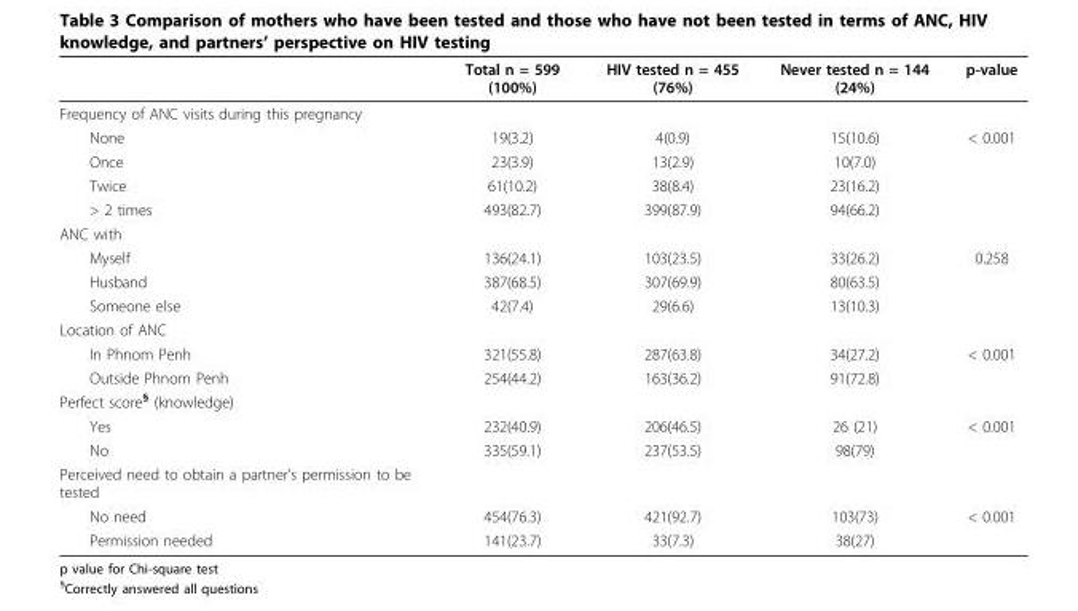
<table><thead><tr><td></td><td>Total n = 599 (100%)</td><td>HIV tested n = 455 (76%)</td><td>Never tested n = 144 (24%)</td><td>p-value</td></tr></thead><tbody><tr><td colspan="5">Frequency of ANC visits during this pregnancy</td></tr><tr><td>None</td><td>19(3.2)</td><td>4(0.9)</td><td>15(10.6)</td><td>&lt; 0.001</td></tr><tr><td>Once</td><td>23(3.9)</td><td>13(2.9)</td><td>10(7.0)</td><td></td></tr><tr><td>Twice</td><td>61(10.2)</td><td>38(8.4)</td><td>23(16.2)</td><td></td></tr><tr><td>&gt; 2 times</td><td>493(82.7)</td><td>399(87.9)</td><td>94(66.2)</td><td></td></tr><tr><td colspan="5">ANC with</td></tr><tr><td>Myself</td><td>136(24.1)</td><td>103(23.5)</td><td>33(26.2)</td><td>0.258</td></tr><tr><td>Husband</td><td>387(68.5)</td><td>307(69.9)</td><td>80(63.5)</td><td></td></tr><tr><td>Someone else</td><td>42(7.4)</td><td>29(6.6)</td><td>13(10.3)</td><td></td></tr><tr><td colspan="5">Location of ANC</td></tr><tr><td>In Phnom Penh</td><td>321(55.8)</td><td>287(63.8)</td><td>34(27.2)</td><td>&lt; 0.001</td></tr><tr><td>Outside Phnom Penh</td><td>254(44.2)</td><td>163(36.2)</td><td>91(72.8)</td><td></td></tr><tr><td colspan="5">Perfect score<sup>§</sup> (knowledge)</td></tr><tr><td>Yes</td><td>232(40.9)</td><td>206(46.5)</td><td>26 (21)</td><td>&lt; 0.001</td></tr><tr><td>No</td><td>335(59.1)</td><td>237(53.5)</td><td>98(79)</td><td></td></tr><tr><td colspan="5">Perceived need to obtain a partner’s permission to be tested</td></tr><tr><td>No need</td><td>454(76.3)</td><td>421(92.7)</td><td>103(73)</td><td>&lt; 0.001</td></tr><tr><td>Permission needed</td><td>141(23.7)</td><td>33(7.3)</td><td>38(27)</td><td></td></tr></tbody></table>